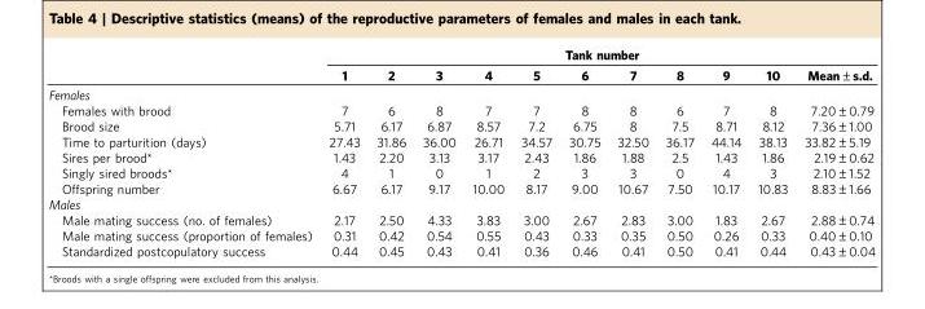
<table><thead><tr><td rowspan="2"></td><td colspan="11">Tank number</td></tr><tr><td>1</td><td>2</td><td>3</td><td>4</td><td>5</td><td>6</td><td>7</td><td>8</td><td>9</td><td>10</td><td>Mean±s.d.</td></tr></thead><tbody><tr><td colspan="12">Females</td></tr><tr><td>Females with brood</td><td>7</td><td>6</td><td>8</td><td>7</td><td>7</td><td>8</td><td>8</td><td>6</td><td>7</td><td>8</td><td>7.20±0.79</td></tr><tr><td>Brood size</td><td>5.71</td><td>6.17</td><td>6.87</td><td>8.57</td><td>7.2</td><td>6.75</td><td>8</td><td>7.5</td><td>8.71</td><td>8.12</td><td>7.36±1.00</td></tr><tr><td>Time to parturition (days)</td><td>27.43</td><td>31.86</td><td>36.00</td><td>26.71</td><td>34.57</td><td>30.75</td><td>32.50</td><td>36.17</td><td>44.14</td><td>38.13</td><td>33.82±5.19</td></tr><tr><td>Sires per brood*</td><td>1.43</td><td>2.20</td><td>3.13</td><td>3.17</td><td>2.43</td><td>1.86</td><td>1.88</td><td>2.5</td><td>1.43</td><td>1.86</td><td>2.19±0.62</td></tr><tr><td>Singly sired broods*</td><td>4</td><td>1</td><td>0</td><td>1</td><td>2</td><td>3</td><td>3</td><td>0</td><td>4</td><td>3</td><td>2.10±1.52</td></tr><tr><td>Offspring number</td><td>6.67</td><td>6.17</td><td>9.17</td><td>10.00</td><td>8.17</td><td>9.00</td><td>10.67</td><td>7.50</td><td>10.17</td><td>10.83</td><td>8.83±1.66</td></tr><tr><td colspan="12">Males</td></tr><tr><td>Male mating success (no. of females)</td><td>2.17</td><td>2.50</td><td>4.33</td><td>3.83</td><td>3.00</td><td>2.67</td><td>2.83</td><td>3.00</td><td>1.83</td><td>2.67</td><td>2.88±0.74</td></tr><tr><td>Male mating success (proportion of females)</td><td>0.31</td><td>0.42</td><td>0.54</td><td>0.55</td><td>0.43</td><td>0.33</td><td>0.35</td><td>0.50</td><td>0.26</td><td>0.33</td><td>0.40±0.10</td></tr><tr><td>Standardized postcopulatory success</td><td>0.44</td><td>0.45</td><td>0.43</td><td>0.41</td><td>0.36</td><td>0.46</td><td>0.41</td><td>0.50</td><td>0.41</td><td>0.44</td><td>0.43±0.04</td></tr></tbody></table>